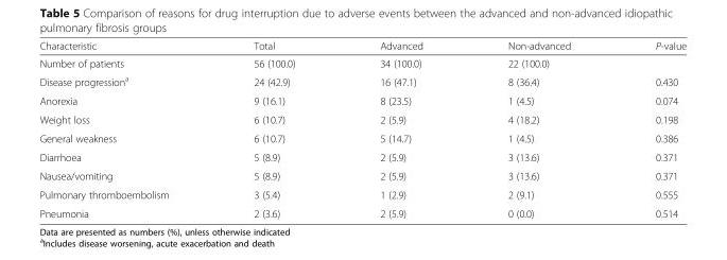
<table><thead><tr><td>Characteristic</td><td>Total</td><td>Advanced</td><td>Non-advanced</td><td>P-value</td></tr></thead><tbody><tr><td>Number of patients</td><td>56 (100.0)</td><td>34 (100.0)</td><td>22 (100.0)</td><td></td></tr><tr><td>Disease progression<sup>a</sup></td><td>24 (42.9)</td><td>16 (47.1)</td><td>8 (36.4)</td><td>0.430</td></tr><tr><td>Anorexia</td><td>9 (16.1)</td><td>8 (23.5)</td><td>1 (4.5)</td><td>0.074</td></tr><tr><td>Weight loss</td><td>6 (10.7)</td><td>2 (5.9)</td><td>4 (18.2)</td><td>0.198</td></tr><tr><td>General weakness</td><td>6 (10.7)</td><td>5 (14.7)</td><td>1 (4.5)</td><td>0.386</td></tr><tr><td>Diarrhoea</td><td>5 (8.9)</td><td>2 (5.9)</td><td>3 (13.6)</td><td>0.371</td></tr><tr><td>Nausea/vomiting</td><td>5 (8.9)</td><td>2 (5.9)</td><td>3 (13.6)</td><td>0.371</td></tr><tr><td>Pulmonary thromboembolism</td><td>3 (5.4)</td><td>1 (2.9)</td><td>2 (9.1)</td><td>0.555</td></tr><tr><td>Pneumonia</td><td>2 (3.6)</td><td>2 (5.9)</td><td>0 (0.0)</td><td>0.514</td></tr></tbody></table>